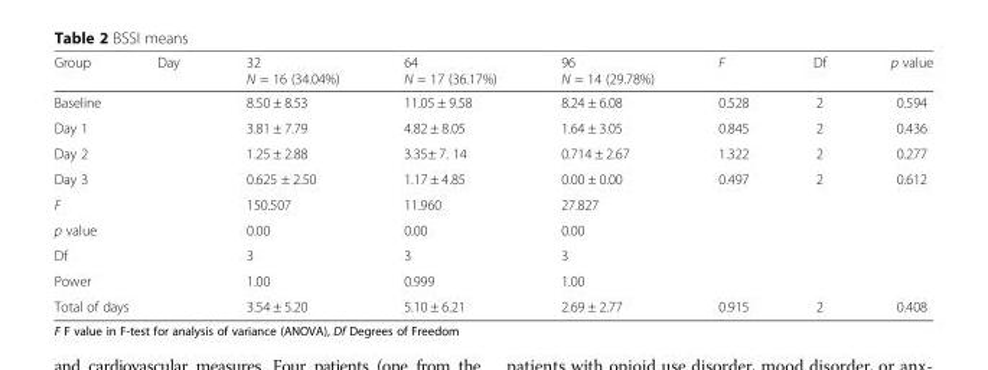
<table><thead><tr><td>Group</td><td>Day</td><td>32 N = 16 (34.04%)</td><td>64 N = 17 (36.17%)</td><td>96 N = 14 (29.78%)</td><td>F</td><td>Df</td><td>p value</td></tr></thead><tbody><tr><td colspan="2">Baseline</td><td>8.50 ± 8.53</td><td>11.05 ± 9.58</td><td>8.24 ± 6.08</td><td>0.528</td><td>2</td><td>0.594</td></tr><tr><td colspan="2">Day 1</td><td>3.81 ± 7.79</td><td>4.82 ± 8.05</td><td>1.64 ± 3.05</td><td>0.845</td><td>2</td><td>0.436</td></tr><tr><td colspan="2">Day 2</td><td>1.25 ± 2.88</td><td>3.35± 7. 14</td><td>0.714 ± 2.67</td><td>1.322</td><td>2</td><td>0.277</td></tr><tr><td colspan="2">Day 3</td><td>0.625 ± 2.50</td><td>1.17 ± 4.85</td><td>0.00 ± 0.00</td><td>0.497</td><td>2</td><td>0.612</td></tr><tr><td colspan="2">F</td><td>150.507</td><td>11.960</td><td>27.827</td><td></td><td></td><td></td></tr><tr><td colspan="2">p value</td><td>0.00</td><td>0.00</td><td>0.00</td><td></td><td></td><td></td></tr><tr><td colspan="2">Df</td><td>3</td><td>3</td><td>3</td><td></td><td></td><td></td></tr><tr><td colspan="2">Power</td><td>1.00</td><td>0.999</td><td>1.00</td><td></td><td></td><td></td></tr><tr><td colspan="2">Total of days</td><td>3.54 ± 5.20</td><td>5.10 ± 6.21</td><td>2.69 ± 2.77</td><td>0.915</td><td>2</td><td>0.408</td></tr></tbody></table>